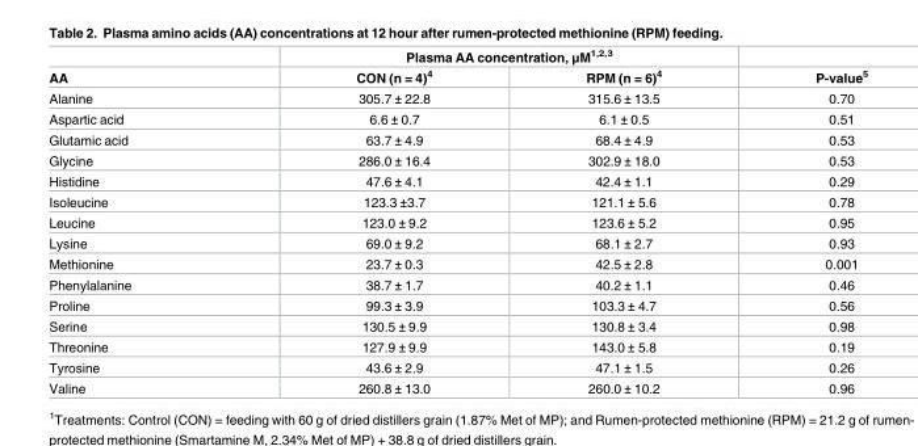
<table><thead><tr><td rowspan="2">AA</td><td colspan="2">Plasma AA concentration, μM<sup>1,2,3</sup></td><td rowspan="2">P-value<sup>5</sup></td></tr><tr><td>CON (n = 4)<sup>4</sup></td><td>RPM (n = 6)<sup>4</sup></td></tr></thead><tbody><tr><td>Alanine</td><td>305.7 ± 22.8</td><td>315.6 ± 13.5</td><td>0.70</td></tr><tr><td>Aspartic acid</td><td>6.6 ± 0.7</td><td>6.1 ± 0.5</td><td>0.51</td></tr><tr><td>Glutamic acid</td><td>63.7 ± 4.9</td><td>68.4 ± 4.9</td><td>0.53</td></tr><tr><td>Glycine</td><td>286.0 ± 16.4</td><td>302.9 ± 18.0</td><td>0.53</td></tr><tr><td>Histidine</td><td>47.6 ± 4.1</td><td>42.4 ± 1.1</td><td>0.29</td></tr><tr><td>Isoleucine</td><td>123.3 ±3.7</td><td>121.1 ± 5.6</td><td>0.78</td></tr><tr><td>Leucine</td><td>123.0 ± 9.2</td><td>123.6 ± 5.2</td><td>0.95</td></tr><tr><td>Lysine</td><td>69.0 ± 9.2</td><td>68.1 ± 2.7</td><td>0.93</td></tr><tr><td>Methionine</td><td>23.7 ± 0.3</td><td>42.5 ± 2.8</td><td>0.001</td></tr><tr><td>Phenylalanine</td><td>38.7 ± 1.7</td><td>40.2 ± 1.1</td><td>0.46</td></tr><tr><td>Proline</td><td>99.3 ± 3.9</td><td>103.3 ± 4.7</td><td>0.56</td></tr><tr><td>Serine</td><td>130.5 ± 9.9</td><td>130.8 ± 3.4</td><td>0.98</td></tr><tr><td>Threonine</td><td>127.9 ± 9.9</td><td>143.0 ± 5.8</td><td>0.19</td></tr><tr><td>Tyrosine</td><td>43.6 ± 2.9</td><td>47.1 ± 1.5</td><td>0.26</td></tr><tr><td>Valine</td><td>260.8 ± 13.0</td><td>260.0 ± 10.2</td><td>0.96</td></tr></tbody></table>